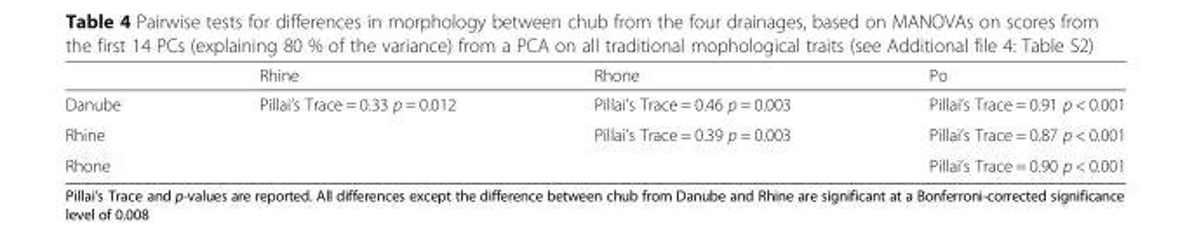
<table><thead><tr><td></td><td>Rhine</td><td>Rhone</td><td>Po</td></tr></thead><tbody><tr><td>Danube</td><td>Pillai’s Trace = 0.33 p = 0.012</td><td>Pillai’s Trace = 0.46 p = 0.003</td><td>Pillai’s Trace = 0.91 p &lt; 0.001</td></tr><tr><td>Rhine</td><td></td><td>Pillai’s Trace = 0.39 p = 0.003</td><td>Pillai’s Trace = 0.87 p &lt; 0.001</td></tr><tr><td>Rhone</td><td></td><td></td><td>Pillai’s Trace = 0.90 p &lt; 0.001</td></tr></tbody></table>